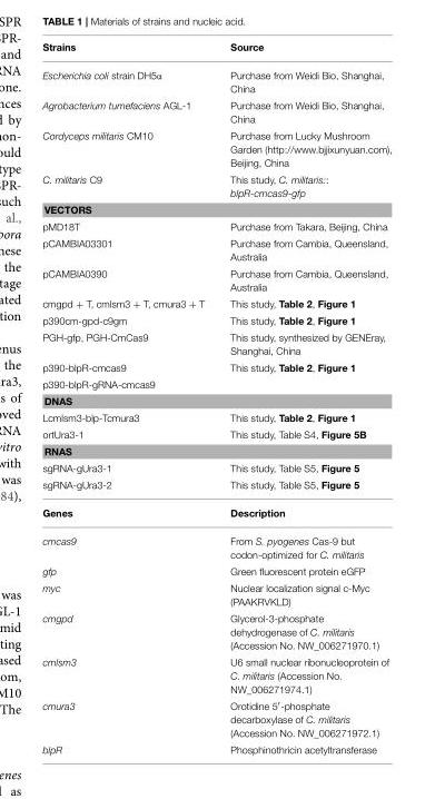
<table><thead><tr><td>Strains</td><td>Source</td></tr></thead><tbody><tr><td>Escherichia coli strain DH5α</td><td>Purchase from Weidi Bio, Shanghai, China</td></tr><tr><td>Agrobacterium tumefaciens AGL-1</td><td>Purchase from Weidi Bio, Shanghai, China</td></tr><tr><td>Cordyceps militaris CM10</td><td>Purchase from Lucky Mushroom Garden (http://www.bjjixunyuan.com), Beijing, China</td></tr><tr><td>C. militaris C9</td><td>This study, C. militaris:: blpR-cmcas9-gfp</td></tr><tr><td colspan="2">VECTORS</td></tr><tr><td>pMD18T</td><td>Purchase from Takara, Beijing, China</td></tr><tr><td>pCAMBIA03301</td><td>Purchase from Cambia, Queensland, Australia</td></tr><tr><td>pCAMBIA0390</td><td>Purchase from Cambia, Queensland, Australia</td></tr><tr><td>cmgpd + T, cmlsm3 + T, cmura3 + T</td><td>This study, Table 2, Figure 1</td></tr><tr><td>p390cm-gpd-c9gm</td><td>This study, Table 2, Figure 1</td></tr><tr><td>PGH-gfp, PGH-CmCas9</td><td>This study, synthesized by GENEray, Shanghai, China</td></tr><tr><td>p390-blpR-cmcas9</td><td>This study, Table 2, Figure 1</td></tr><tr><td colspan="2">p390-blpR-gRNA-cmcas9</td></tr><tr><td colspan="2">DNAS</td></tr><tr><td>Lcmlsm3-blp-Tcmura3</td><td>This study, Table 2, Figure 1</td></tr><tr><td>ortUra3-1</td><td>This study, Table S4, Figure 5B</td></tr><tr><td colspan="2">RNAS</td></tr><tr><td>sgRNA-gUra3-1</td><td>This study, Table S5, Figure 5</td></tr><tr><td>sgRNA-gUra3-2</td><td>This study, Table S5, Figure 5</td></tr><tr><td>Genes</td><td>Description</td></tr><tr><td>cmcas9</td><td>From S. pyogenes Cas-9 but codon-optimized for C. militaris</td></tr><tr><td>gfp</td><td>Green fluorescent protein eGFP</td></tr><tr><td>myc</td><td>Nuclear localization signal c-Myc (PAAKRVKLD)</td></tr><tr><td>cmgpd</td><td>Glycerol-3-phosphate dehydrogenase of C. militaris (Accession No. NW_006271970.1)</td></tr><tr><td>cmlsm3</td><td>U6 small nuclear ribonucleoprotein of C. militaris (Accession No. NW_006271974.1)</td></tr><tr><td>cmura3</td><td>Orotidine 5′-phosphate decarboxylase of C. militaris (Accession No. NW_006271972.1)</td></tr><tr><td>blpR</td><td>Phosphinothricin acetyltransferase</td></tr></tbody></table>